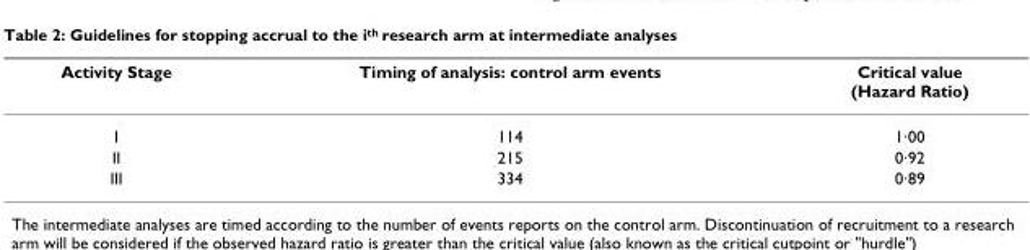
<table><thead><tr><td>Activity Stage</td><td>Timing of analysis: control arm events</td><td>Critical value (Hazard Ratio)</td></tr></thead><tbody><tr><td>I</td><td>114</td><td>1·00</td></tr><tr><td>II</td><td>215</td><td>0·92</td></tr><tr><td>III</td><td>334</td><td>0·89</td></tr></tbody></table>